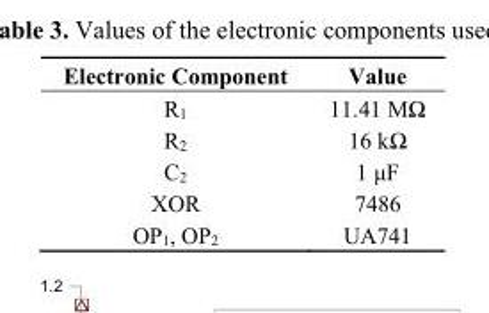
<table><thead><tr><td>Electronic Component</td><td>Value</td></tr></thead><tbody><tr><td>R<sub>1</sub></td><td>11.41 MΩ</td></tr><tr><td>R<sub>2</sub></td><td>16 kΩ</td></tr><tr><td>C<sub>2</sub></td><td>1 μF</td></tr><tr><td>XOR</td><td>7486</td></tr><tr><td>OP<sub>1</sub>, OP<sub>2</sub></td><td>UA741</td></tr></tbody></table>